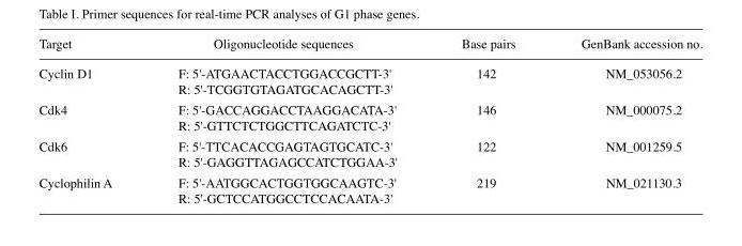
<table><thead><tr><td>Target</td><td>Oligonucleotide sequences</td><td>Base pairs</td><td>GenBank accession no.</td></tr></thead><tbody><tr><td rowspan="2">Cyclin D1</td><td>F: 5&#x27;-ATGAACTACCTGGACCGCTT-3&#x27;</td><td>142</td><td>NM_053056.2</td></tr><tr><td>R: 5&#x27;-TCGGTGTAGATGCACAGCTT-3&#x27;</td><td></td><td></td></tr><tr><td rowspan="2">Cdk4</td><td>F: 5&#x27;-GACCAGGACCTAAGGACATA-3&#x27;</td><td>146</td><td>NM_000075.2</td></tr><tr><td>R: 5&#x27;-GTTCTCTGGCTTCAGATCTC-3&#x27;</td><td></td><td></td></tr><tr><td rowspan="2">Cdk6</td><td>F: 5&#x27;-TTCACACCGAGTAGTGCATC-3&#x27;</td><td>122</td><td>NM_001259.5</td></tr><tr><td>R: 5&#x27;-GAGGTTAGAGCCATCTGGAA-3&#x27;</td><td></td><td></td></tr><tr><td rowspan="2">Cyclophilin A</td><td>F: 5&#x27;-AATGGCACTGGTGGCAAGTC-3&#x27;</td><td>219</td><td>NM_021130.3</td></tr><tr><td>R: 5&#x27;-GCTCCATGGCCTCCACAATA-3&#x27;</td><td></td><td></td></tr></tbody></table>